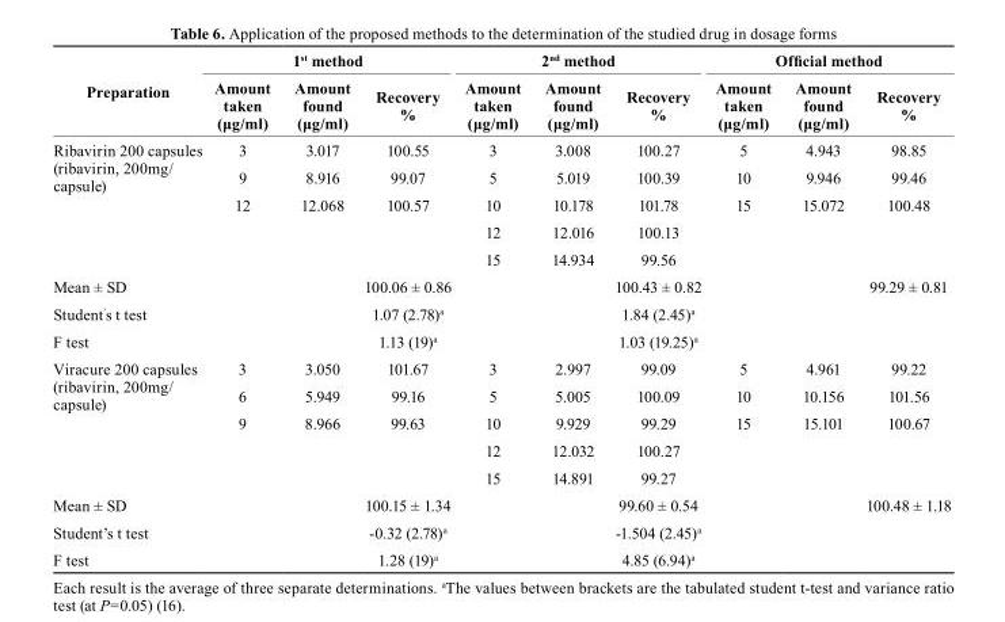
<table><thead><tr><td rowspan="2">Preparation</td><td colspan="3">1st method</td><td colspan="3">2nd method</td><td colspan="3">Official method</td></tr><tr><td>Amount taken (μg/ml)</td><td>Amount found (μg/ml)</td><td>recovery %</td><td>Amount taken (μg/ml)</td><td>Amount found (μg/ml)</td><td>recovery %</td><td>Amount taken (μg/ml)</td><td>Amount found (μg/ml)</td><td>recovery %</td></tr></thead><tbody><tr><td rowspan="5">Ribavirin 200 capsules (ribavirin, 200mg/ capsule)</td><td>3</td><td>3.017</td><td>100.55</td><td>3</td><td>3.008</td><td>100.27</td><td>5</td><td>4.943</td><td>98.85</td></tr><tr><td>9</td><td>8.916</td><td>99.07</td><td>5</td><td>5.019</td><td>100.39</td><td>10</td><td>9.946</td><td>99.46</td></tr><tr><td>12</td><td>12.068</td><td>100.57</td><td>10</td><td>10.178</td><td>101.78</td><td>15</td><td>15.072</td><td>100.48</td></tr><tr><td></td><td></td><td></td><td>12</td><td>12.016</td><td>100.13</td><td></td><td></td><td></td></tr><tr><td></td><td></td><td></td><td>15</td><td>14.934</td><td>99.56</td><td></td><td></td><td></td></tr><tr><td>Mean ± SD</td><td></td><td></td><td>100.06 ± 0.86</td><td></td><td></td><td>100.43 ± 0.82</td><td></td><td></td><td>99.29 ± 0.81</td></tr><tr><td>Student’s t test</td><td></td><td></td><td>1.07 (2.78)<sup>a</sup></td><td></td><td></td><td>1.84 (2.45)<sup>a</sup></td><td></td><td></td><td></td></tr><tr><td>F test</td><td></td><td></td><td>1.13 (19)<sup>a</sup></td><td></td><td></td><td>1.03 (19.25)<sup>a</sup></td><td></td><td></td><td></td></tr><tr><td rowspan="5">Viracure 200 capsules (ribavirin, 200mg/ capsule)</td><td>3</td><td>3.050</td><td>101.67</td><td>3</td><td>2.997</td><td>99.09</td><td>5</td><td>4.961</td><td>99.22</td></tr><tr><td>6</td><td>5.949</td><td>99.16</td><td>5</td><td>5.005</td><td>100.09</td><td>10</td><td>10.156</td><td>101.56</td></tr><tr><td>9</td><td>8.966</td><td>99.63</td><td>10</td><td>9.929</td><td>99.29</td><td>15</td><td>15.101</td><td>100.67</td></tr><tr><td></td><td></td><td></td><td>12</td><td>12.032</td><td>100.27</td><td></td><td></td><td></td></tr><tr><td></td><td></td><td></td><td>15</td><td>14.891</td><td>99.27</td><td></td><td></td><td></td></tr><tr><td>Mean ± SD</td><td></td><td></td><td>100.15 ± 1.34</td><td></td><td></td><td>99.60 ± 0.54</td><td></td><td></td><td>100.48 ± 1.18</td></tr><tr><td>Student’s t test</td><td></td><td></td><td>-0.32 (2.78)<sup>a</sup></td><td></td><td></td><td>-1.504 (2.45)<sup>a</sup></td><td></td><td></td><td></td></tr><tr><td>F test</td><td></td><td></td><td>1.28 (19)<sup>a</sup></td><td></td><td></td><td>4.85 (6.94)<sup>a</sup></td><td></td><td></td><td></td></tr></tbody></table>